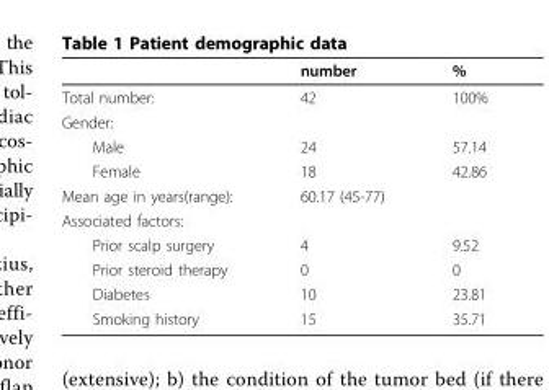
<table><thead><tr><td></td><td>number</td><td>%</td></tr></thead><tbody><tr><td>Total number:</td><td>42</td><td>100%</td></tr><tr><td colspan="3">Gender:</td></tr><tr><td>Male</td><td>24</td><td>57.14</td></tr><tr><td>Female</td><td>18</td><td>42.86</td></tr><tr><td>Mean age in years(range):</td><td>60.17 (45-77)</td><td></td></tr><tr><td colspan="3">Associated factors:</td></tr><tr><td>Prior scalp surgery</td><td>4</td><td>9.52</td></tr><tr><td>Prior steroid therapy</td><td>0</td><td>0</td></tr><tr><td>Diabetes</td><td>10</td><td>23.81</td></tr><tr><td>Smoking history</td><td>15</td><td>35.71</td></tr></tbody></table>